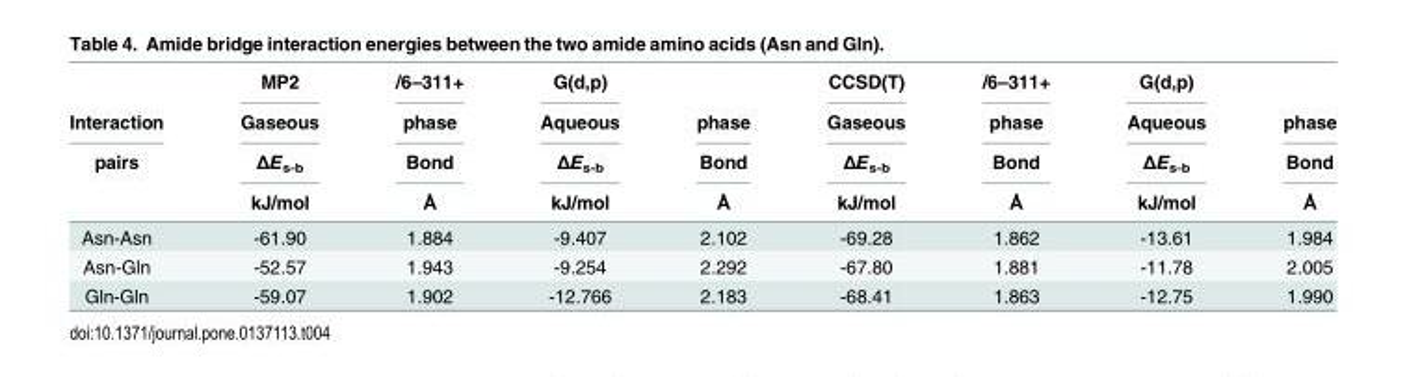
<table><thead><tr><td rowspan="4">Interaction pairs</td><td rowspan="4">MP2 Gaseous ΔE<sub>s-b</sub> kJ/mol</td><td rowspan="4">/6–311+ phase Bond Å</td><td rowspan="4">G(d,p) Aqueous ΔE<sub>s-b</sub> kJ/mol</td><td rowspan="4">phase Bond Å</td><td rowspan="4">CCSD(T) Gaseous ΔE<sub>s-b</sub> kJ/mol</td><td rowspan="4">/6–311+ phase Bond Å</td><td rowspan="4">G(d,p) Aqueous ΔE<sub>s-b</sub> kJ/mol</td><td rowspan="4">phase Bond Å</td></tr><tr></tr><tr></tr><tr></tr></thead><tbody><tr><td>Asn-Asn</td><td>-61.90</td><td>1.884</td><td>-9.407</td><td>2.102</td><td>-69.28</td><td>1.862</td><td>-13.61</td><td>1.984</td></tr><tr><td>Asn-Gln</td><td>-52.57</td><td>1.943</td><td>-9.254</td><td>2.292</td><td>-67.80</td><td>1.881</td><td>-11.78</td><td>2.005</td></tr><tr><td>Gln-Gln</td><td>-59.07</td><td>1.902</td><td>-12.766</td><td>2.183</td><td>-68.41</td><td>1.863</td><td>-12.75</td><td>1.990</td></tr></tbody></table>